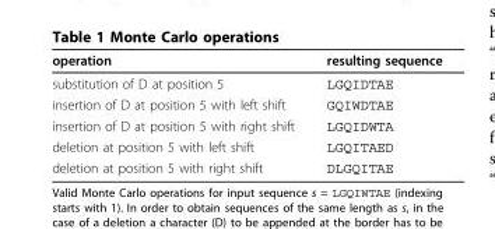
<table><thead><tr><td>operation</td><td>resulting sequence</td></tr></thead><tbody><tr><td>substitution of D at position 5</td><td>LGQIDTAE</td></tr><tr><td>insertion of D at position 5 with left shift</td><td>GQIWDTAE</td></tr><tr><td>insertion of D at position 5 with right shift</td><td>LGQIDWTA</td></tr><tr><td>deletion at position 5 with left shift</td><td>LGQITAED</td></tr><tr><td>deletion at position 5 with right shift</td><td>DLGQITAE</td></tr></tbody></table>